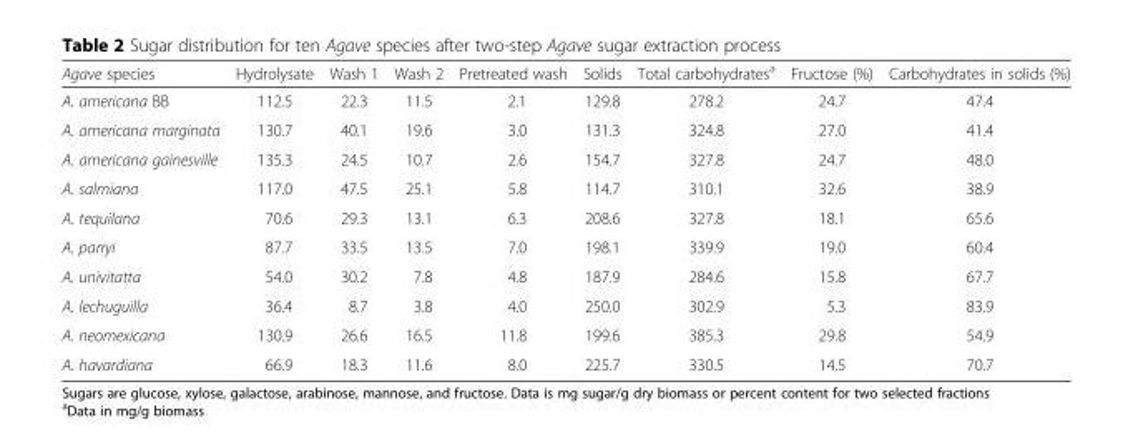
<table><thead><tr><td>Agave species</td><td>Hydrolysate</td><td>Wash 1</td><td>Wash 2</td><td>Pretreated wash</td><td>Solids</td><td>Total carbohydrates<sup>a</sup></td><td>Fructose (%)</td><td>Carbohydrates in solids (%)</td></tr></thead><tbody><tr><td>A. americana BB</td><td>112.5</td><td>22.3</td><td>11.5</td><td>2.1</td><td>129.8</td><td>278.2</td><td>24.7</td><td>47.4</td></tr><tr><td>A. americana marginata</td><td>130.7</td><td>40.1</td><td>19.6</td><td>3.0</td><td>131.3</td><td>324.8</td><td>27.0</td><td>41.4</td></tr><tr><td>A. americana gainesville</td><td>135.3</td><td>24.5</td><td>10.7</td><td>2.6</td><td>154.7</td><td>327.8</td><td>24.7</td><td>48.0</td></tr><tr><td>A. salmiana</td><td>117.0</td><td>47.5</td><td>25.1</td><td>5.8</td><td>114.7</td><td>310.1</td><td>32.6</td><td>38.9</td></tr><tr><td>A. tequilana</td><td>70.6</td><td>29.3</td><td>13.1</td><td>6.3</td><td>208.6</td><td>327.8</td><td>18.1</td><td>65.6</td></tr><tr><td>A. parryi</td><td>87.7</td><td>33.5</td><td>13.5</td><td>7.0</td><td>198.1</td><td>339.9</td><td>19.0</td><td>60.4</td></tr><tr><td>A. univitatta</td><td>54.0</td><td>30.2</td><td>7.8</td><td>4.8</td><td>187.9</td><td>284.6</td><td>15.8</td><td>67.7</td></tr><tr><td>A. lechuguilla</td><td>36.4</td><td>8.7</td><td>3.8</td><td>4.0</td><td>250.0</td><td>302.9</td><td>5.3</td><td>83.9</td></tr><tr><td>A. neomexicana</td><td>130.9</td><td>26.6</td><td>16.5</td><td>11.8</td><td>199.6</td><td>385.3</td><td>29.8</td><td>54.9</td></tr><tr><td>A. havardiana</td><td>66.9</td><td>18.3</td><td>11.6</td><td>8.0</td><td>225.7</td><td>330.5</td><td>14.5</td><td>70.7</td></tr></tbody></table>